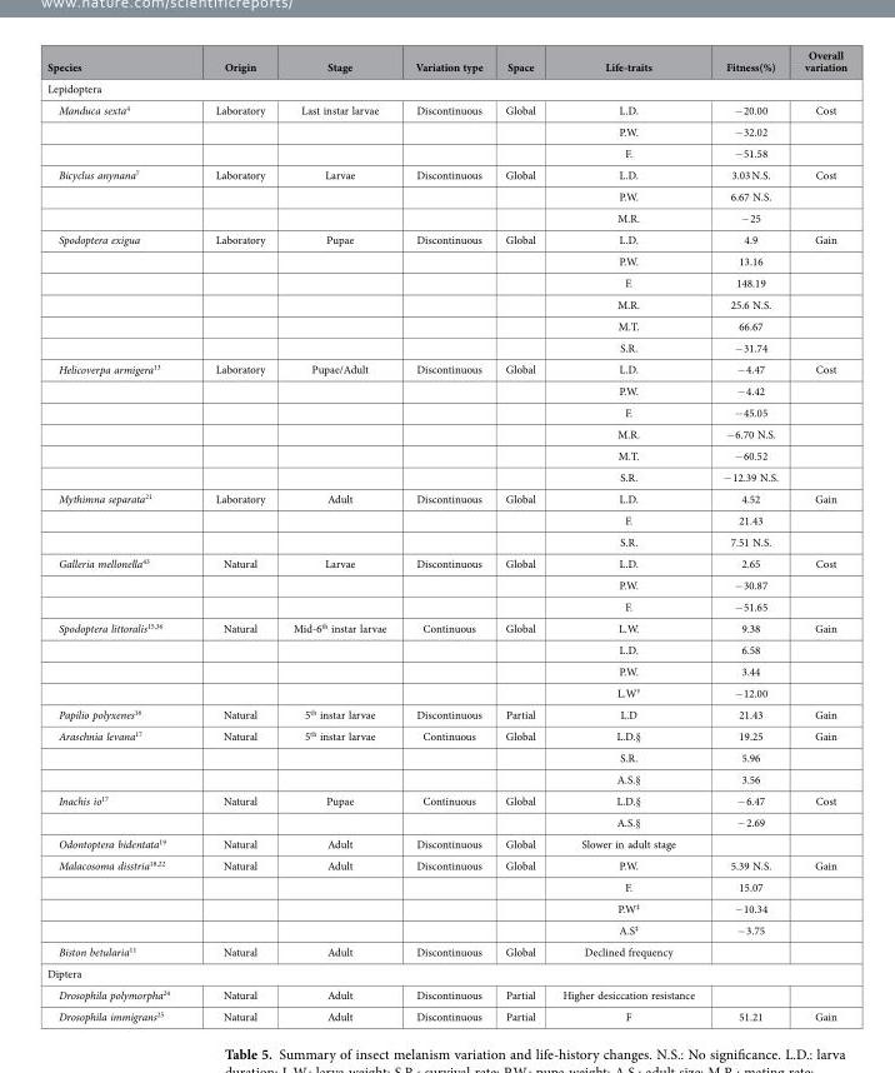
<table><thead><tr><td>Species</td><td>Origin</td><td>Stage</td><td>Variation type</td><td>Space</td><td>Life-traits</td><td>Fitness(%)</td><td>Overall variation</td></tr></thead><tbody><tr><td colspan="8">Lepidoptera</td></tr><tr><td rowspan="3">Manduca sexta<sup>4</sup></td><td>Laboratory</td><td>Last instar larvae</td><td>Discontinuous</td><td>Global</td><td>L.D.</td><td>− 20.00</td><td>Cost</td></tr><tr><td></td><td></td><td></td><td></td><td>P.W.</td><td>− 32.02</td><td></td></tr><tr><td></td><td></td><td></td><td></td><td>F.</td><td>− 51.58</td><td></td></tr><tr><td rowspan="3">Bicyclus anynana<sup>7</sup></td><td>Laboratory</td><td>Larvae</td><td>Discontinuous</td><td>Global</td><td>L.D.</td><td>3.03 N.S.</td><td>Cost</td></tr><tr><td></td><td></td><td></td><td></td><td>P.W.</td><td>6.67 N.S.</td><td></td></tr><tr><td></td><td></td><td></td><td></td><td>M.R.</td><td>− 25</td><td></td></tr><tr><td rowspan="6">Spodoptera exigua</td><td>Laboratory</td><td>Pupae</td><td>Discontinuous</td><td>Global</td><td>L.D.</td><td>4.9</td><td>Gain</td></tr><tr><td></td><td></td><td></td><td></td><td>P.W.</td><td>13.16</td><td></td></tr><tr><td></td><td></td><td></td><td></td><td>F.</td><td>148.19</td><td></td></tr><tr><td></td><td></td><td></td><td></td><td>M.R.</td><td>25.6 N.S.</td><td></td></tr><tr><td></td><td></td><td></td><td></td><td>M.T.</td><td>66.67</td><td></td></tr><tr><td></td><td></td><td></td><td></td><td>S.R.</td><td>− 31.74</td><td></td></tr><tr><td rowspan="6">Helicoverpa armigera<sup>13</sup></td><td>Laboratory</td><td>Pupae/Adult</td><td>Discontinuous</td><td>Global</td><td>L.D.</td><td>− 4.47</td><td>Cost</td></tr><tr><td></td><td></td><td></td><td></td><td>P.W.</td><td>− 4.42</td><td></td></tr><tr><td></td><td></td><td></td><td></td><td>F.</td><td>− 45.05</td><td></td></tr><tr><td></td><td></td><td></td><td></td><td>M.R.</td><td>− 6.70 N.S.</td><td></td></tr><tr><td></td><td></td><td></td><td></td><td>M.T.</td><td>− 60.52</td><td></td></tr><tr><td></td><td></td><td></td><td></td><td>S.R.</td><td>− 12.39 N.S.</td><td></td></tr><tr><td rowspan="3">Mythimna separata<sup>21</sup></td><td>Laboratory</td><td>Adult</td><td>Discontinuous</td><td>Global</td><td>L.D.</td><td>4.52</td><td>Gain</td></tr><tr><td></td><td></td><td></td><td></td><td>F.</td><td>21.43</td><td></td></tr><tr><td></td><td></td><td></td><td></td><td>S.R.</td><td>7.51 N.S.</td><td></td></tr><tr><td rowspan="3">Galleria mellonella<sup>43</sup></td><td>Natural</td><td>Larvae</td><td>Discontinuous</td><td>Global</td><td>L.D.</td><td>2.65</td><td>Cost</td></tr><tr><td></td><td></td><td></td><td></td><td>P.W.</td><td>− 30.87</td><td></td></tr><tr><td></td><td></td><td></td><td></td><td>F.</td><td>− 51.65</td><td></td></tr><tr><td rowspan="4">Spodoptera littoralis<sup>15</sup>,<sup>36</sup></td><td>Natural</td><td>Mid-6<sup>th</sup> instar larvae</td><td>Continuous</td><td>Global</td><td>L.W.</td><td>9.38</td><td>Gain</td></tr><tr><td></td><td></td><td></td><td></td><td>L.D.</td><td>6.58</td><td></td></tr><tr><td></td><td></td><td></td><td></td><td>P.W.</td><td>3.44</td><td></td></tr><tr><td></td><td></td><td></td><td></td><td>L.W†</td><td>− 12.00</td><td></td></tr><tr><td>Papilio polyxenes<sup>16</sup></td><td>Natural</td><td>5<sup>th</sup> instar larvae</td><td>Discontinuous</td><td>Partial</td><td>L.D</td><td>21.43</td><td>Gain</td></tr><tr><td rowspan="3">Araschnia levana<sup>17</sup></td><td>Natural</td><td>5<sup>th</sup> instar larvae</td><td>Continuous</td><td>Global</td><td>L.D.§</td><td>19.25</td><td>Gain</td></tr><tr><td></td><td></td><td></td><td></td><td>S.R.</td><td>5.96</td><td></td></tr><tr><td></td><td></td><td></td><td></td><td>A.S.§</td><td>3.56</td><td></td></tr><tr><td rowspan="2">Inachis io<sup>17</sup></td><td>Natural</td><td>Pupae</td><td>Continuous</td><td>Global</td><td>L.D.§</td><td>− 6.47</td><td>Cost</td></tr><tr><td></td><td></td><td></td><td></td><td>A.S.§</td><td>− 2.69</td><td></td></tr><tr><td>Odontoptera bidentata<sup>19</sup></td><td>Natural</td><td>Adult</td><td>Discontinuous</td><td>Global</td><td>Slower in adult stage</td><td></td><td></td></tr><tr><td rowspan="4">Malacosoma disstria<sup>18</sup>,<sup>22</sup></td><td>Natural</td><td>Adult</td><td>Discontinuous</td><td>Global</td><td>P.W.</td><td>5.39 N.S.</td><td>Gain</td></tr><tr><td></td><td></td><td></td><td></td><td>F.</td><td>15.07</td><td></td></tr><tr><td></td><td></td><td></td><td></td><td>P.W‡</td><td>− 10.34</td><td></td></tr><tr><td></td><td></td><td></td><td></td><td>A.S‡</td><td>− 3.75</td><td></td></tr><tr><td>Biston betularia<sup>11</sup></td><td>Natural</td><td>Adult</td><td>Discontinuous</td><td>Global</td><td>Declined frequency</td><td></td><td></td></tr><tr><td colspan="8">Diptera</td></tr><tr><td>Drosophila polymorpha<sup>24</sup></td><td>Natural</td><td>Adult</td><td>Discontinuous</td><td>Partial</td><td>Higher desiccation resistance</td><td></td><td></td></tr><tr><td>Drosophila immigrans<sup>25</sup></td><td>Natural</td><td>Adult</td><td>Discontinuous</td><td>Partial</td><td>F</td><td>51.21</td><td>Gain</td></tr></tbody></table>